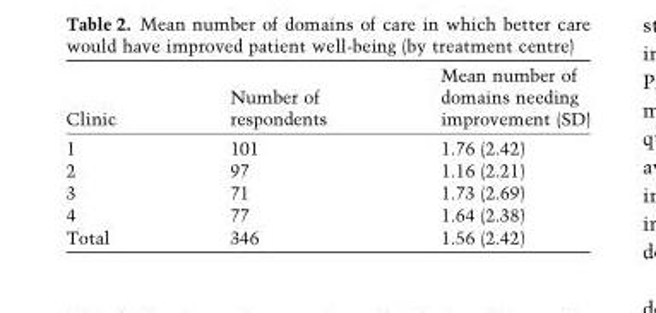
<table><thead><tr><td>Clinic</td><td>Number of respondents</td><td>Mean number of domains needing improvement (SD)</td></tr></thead><tbody><tr><td>1</td><td>101</td><td>1.76 (2.42)</td></tr><tr><td>2</td><td>97</td><td>1.16 (2.21)</td></tr><tr><td>3</td><td>71</td><td>1.73 (2.69)</td></tr><tr><td>4</td><td>77</td><td>1.64 (2.38)</td></tr><tr><td>Total</td><td>346</td><td>1.56 (2.42)</td></tr></tbody></table>